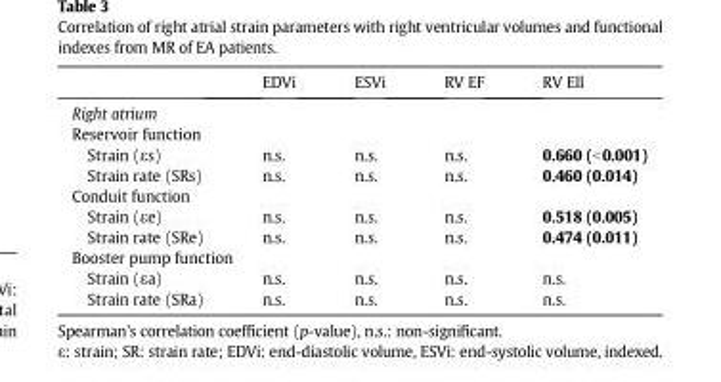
<table><thead><tr><td></td><td>EDVi</td><td>ESVi</td><td>RV EF</td><td>RV Ell</td></tr></thead><tbody><tr><td colspan="5">Right atrium</td></tr><tr><td colspan="5">Reservoir function</td></tr><tr><td>Strain (εs)</td><td>n.s.</td><td>n.s.</td><td>n.s.</td><td>0.660 (&lt;0.001)</td></tr><tr><td>Strain rate (SRs)</td><td>n.s.</td><td>n.s.</td><td>n.s.</td><td>0.460 (0.014)</td></tr><tr><td colspan="5">Conduit function</td></tr><tr><td>Strain (εe)</td><td>n.s.</td><td>n.s.</td><td>n.s.</td><td>0.518 (0.005)</td></tr><tr><td>Strain rate (SRe)</td><td>n.s.</td><td>n.s.</td><td>n.s.</td><td>0.474 (0.011)</td></tr><tr><td colspan="5">Booster pump function</td></tr><tr><td>Strain (εa)</td><td>n.s.</td><td>n.s.</td><td>n.s.</td><td>n.s.</td></tr><tr><td>Strain rate (SRa)</td><td>n.s.</td><td>n.s.</td><td>n.s.</td><td>n.s.</td></tr></tbody></table>